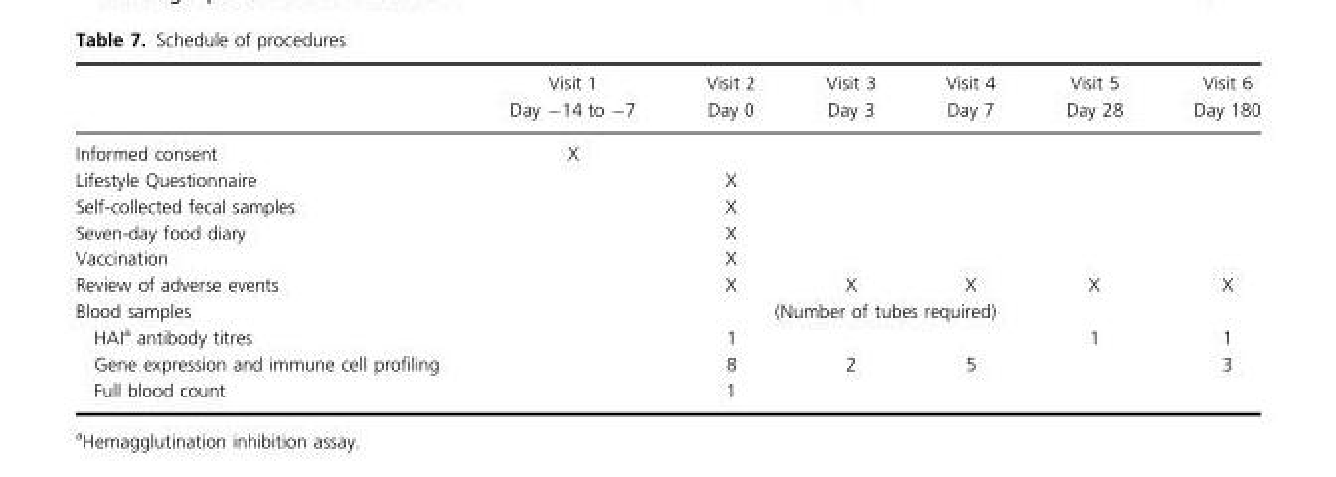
<table><thead><tr><td></td><td>Visit 1 Day −14 to −7</td><td>Visit 2 Day 0</td><td>Visit 3 Day 3</td><td>Visit 4 Day 7</td><td>Visit 5 Day 28</td><td>Visit 6 Day 180</td></tr></thead><tbody><tr><td>Informed consent</td><td>X</td><td></td><td></td><td></td><td></td><td></td></tr><tr><td>Lifestyle Questionnaire</td><td></td><td>X</td><td></td><td></td><td></td><td></td></tr><tr><td>Self-collected fecal samples</td><td></td><td>X</td><td></td><td></td><td></td><td></td></tr><tr><td>Seven-day food diary</td><td></td><td>X</td><td></td><td></td><td></td><td></td></tr><tr><td>Vaccination</td><td></td><td>X</td><td></td><td></td><td></td><td></td></tr><tr><td>Review of adverse events</td><td></td><td>X</td><td>X</td><td>X</td><td>X</td><td>X</td></tr><tr><td>Blood samples</td><td></td><td></td><td colspan="2">(Number of tubes required)</td><td></td><td></td></tr><tr><td>HAI<sup>a</sup> antibody titres</td><td></td><td>1</td><td></td><td></td><td>1</td><td>1</td></tr><tr><td>Gene expression and immune cell profiling</td><td></td><td>8</td><td>2</td><td>5</td><td></td><td>3</td></tr><tr><td>Full blood count</td><td></td><td>1</td><td></td><td></td><td></td><td></td></tr></tbody></table>